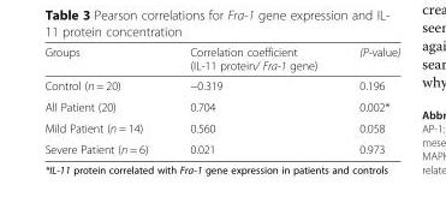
<table><thead><tr><td>Groups</td><td>Correlation coefficient (IL-11 protein/ Fra-1 gene)</td><td>(P-value)</td></tr></thead><tbody><tr><td>Control (n = 20)</td><td>−0.319</td><td>0.196</td></tr><tr><td>All Patient (20)</td><td>0.704</td><td>0.002*</td></tr><tr><td>Mild Patient (n = 14)</td><td>0.560</td><td>0.058</td></tr><tr><td>Severe Patient (n = 6)</td><td>0.021</td><td>0.973</td></tr></tbody></table>